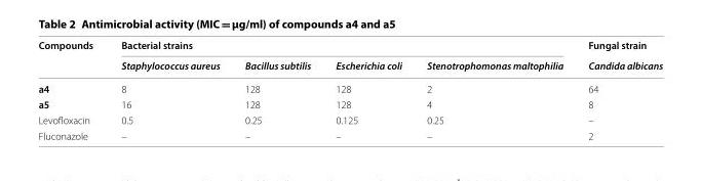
<table><thead><tr><td rowspan="2">Compounds</td><td colspan="4">Bacterial strains</td><td rowspan="2">Fungal strain Candida albicans</td></tr><tr><td>Staphylococcus aureus</td><td>Bacillus subtilis</td><td>Escherichia coli</td><td>Stenotrophomonas maltophilia</td></tr></thead><tbody><tr><td>a4</td><td>8</td><td>128</td><td>128</td><td>2</td><td>64</td></tr><tr><td>a5</td><td>16</td><td>128</td><td>128</td><td>4</td><td>8</td></tr><tr><td>Levofloxacin</td><td>0.5</td><td>0.25</td><td>0.125</td><td>0.25</td><td>–</td></tr><tr><td>Fluconazole</td><td>–</td><td>–</td><td>–</td><td>–</td><td>2</td></tr></tbody></table>